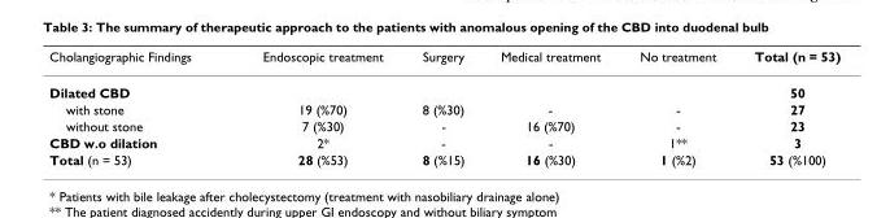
<table><thead><tr><td>Cholangiographic Findings</td><td>Endoscopic treatment</td><td>Surgery</td><td>Medical treatment</td><td>No treatment</td><td>Total (n = 53)</td></tr></thead><tbody><tr><td>Dilated CBD</td><td></td><td></td><td></td><td></td><td>50</td></tr><tr><td>with stone</td><td>19 (%70)</td><td>8 (%30)</td><td>-</td><td>-</td><td>27</td></tr><tr><td>without stone</td><td>7 (%30)</td><td>-</td><td>16 (%70)</td><td>-</td><td>23</td></tr><tr><td>CBD w.o dilation</td><td>2*</td><td>-</td><td>-</td><td>1**</td><td>3</td></tr><tr><td>Total (n = 53)</td><td>28 (%53)</td><td>8 (%15)</td><td>16 (%30)</td><td>1 (%2)</td><td>53 (%100)</td></tr></tbody></table>